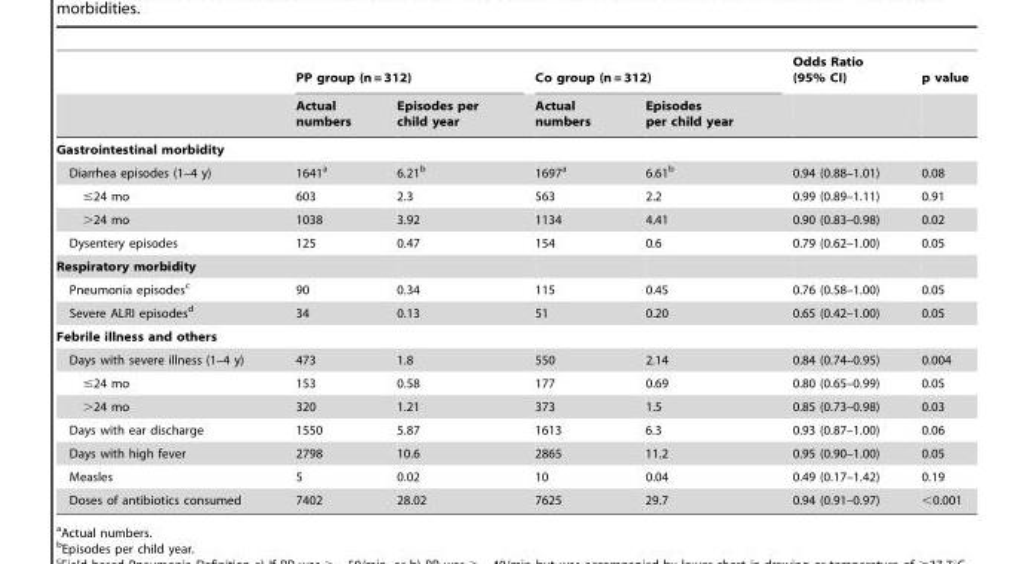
<table><thead><tr><td rowspan="2"></td><td colspan="2">PP group (n = 312)</td><td colspan="2">Co group (n = 312)</td><td rowspan="2">Odds Ratio (95% CI)</td><td rowspan="2">p value</td></tr><tr><td>Actual numbers</td><td>Episodes per child year</td><td>Actual numbers</td><td>Episodes per child year</td></tr></thead><tbody><tr><td colspan="7">Gastrointestinal morbidity</td></tr><tr><td>Diarrhea episodes (1–4 y)</td><td>1641<sup>a</sup></td><td>6.21<sup>b</sup></td><td>1697<sup>a</sup></td><td>6.61<sup>b</sup></td><td>0.94 (0.88–1.01)</td><td>0.08</td></tr><tr><td>≤24 mo</td><td>603</td><td>2.3</td><td>563</td><td>2.2</td><td>0.99 (0.89–1.11)</td><td>0.91</td></tr><tr><td>&gt;24 mo</td><td>1038</td><td>3.92</td><td>1134</td><td>4.41</td><td>0.90 (0.83–0.98)</td><td>0.02</td></tr><tr><td>Dysentery episodes</td><td>125</td><td>0.47</td><td>154</td><td>0.6</td><td>0.79 (0.62–1.00)</td><td>0.05</td></tr><tr><td colspan="7">Respiratory morbidity</td></tr><tr><td>Pneumonia episodes<sup>c</sup></td><td>90</td><td>0.34</td><td>115</td><td>0.45</td><td>0.76 (0.58–1.00)</td><td>0.05</td></tr><tr><td>Severe ALRI episodes<sup>d</sup></td><td>34</td><td>0.13</td><td>51</td><td>0.20</td><td>0.65 (0.42–1.00)</td><td>0.05</td></tr><tr><td colspan="7">Febrile illness and others</td></tr><tr><td>Days with severe illness (1–4 y)</td><td>473</td><td>1.8</td><td>550</td><td>2.14</td><td>0.84 (0.74–0.95)</td><td>0.004</td></tr><tr><td>≤24 mo</td><td>153</td><td>0.58</td><td>177</td><td>0.69</td><td>0.80 (0.65–0.99)</td><td>0.05</td></tr><tr><td>&gt;24 mo</td><td>320</td><td>1.21</td><td>373</td><td>1.5</td><td>0.85 (0.73–0.98)</td><td>0.03</td></tr><tr><td>Days with ear discharge</td><td>1550</td><td>5.87</td><td>1613</td><td>6.3</td><td>0.93 (0.87–1.00)</td><td>0.06</td></tr><tr><td>Days with high fever</td><td>2798</td><td>10.6</td><td>2865</td><td>11.2</td><td>0.95 (0.90–1.00)</td><td>0.05</td></tr><tr><td>Measles</td><td>5</td><td>0.02</td><td>10</td><td>0.04</td><td>0.49 (0.17–1.42)</td><td>0.19</td></tr><tr><td>Doses of antibiotics consumed</td><td>7402</td><td>28.02</td><td>7625</td><td>29.7</td><td>0.94 (0.91–0.97)</td><td>&lt;0.001</td></tr></tbody></table>